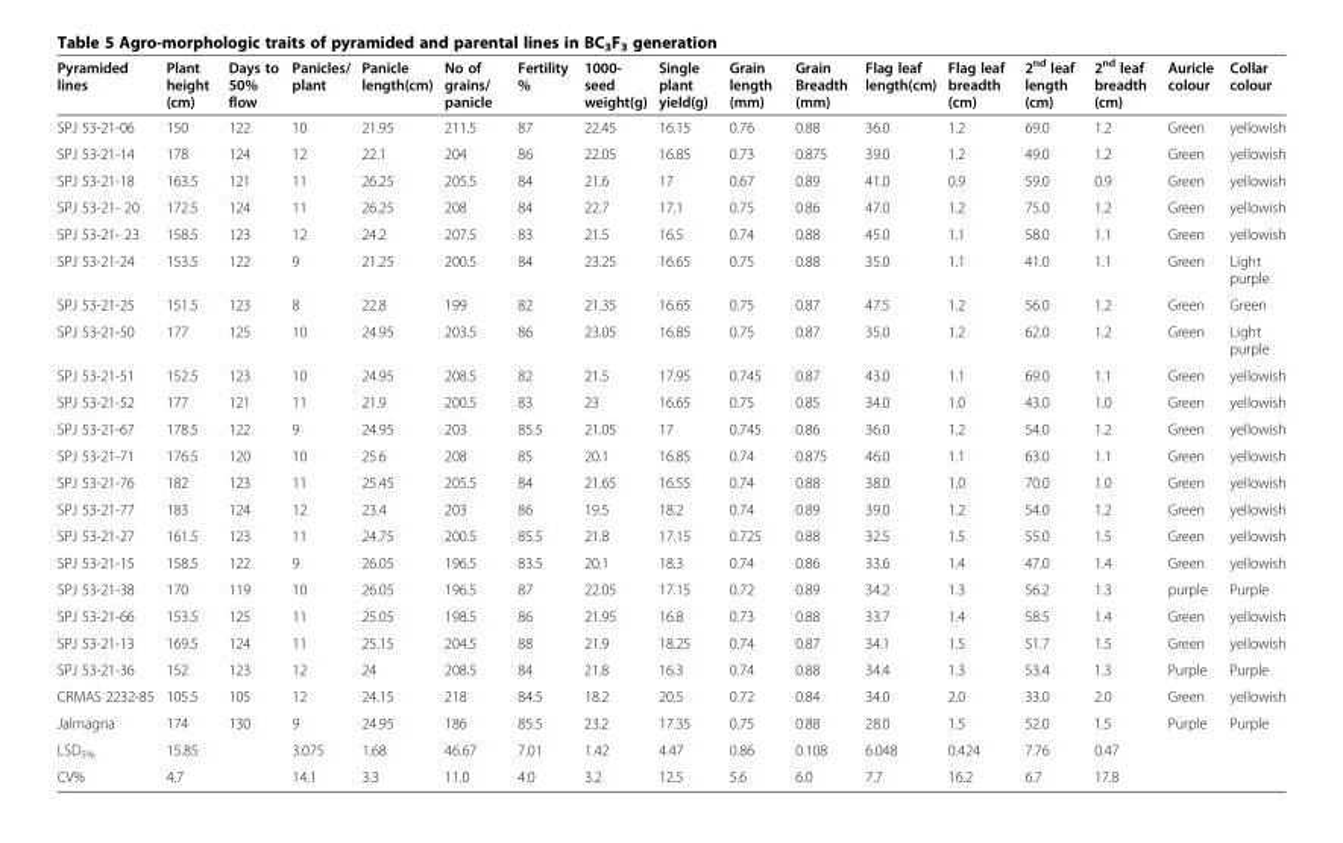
<table><thead><tr><td>Pyramided lines</td><td>Plant height (cm)</td><td>Days to 50% flow</td><td>Panicles/ plant</td><td>Panicle length(cm)</td><td>No of grains/ panicle</td><td>Fertility %</td><td>1000- seed weight(g)</td><td>Single plant yield(g)</td><td>Grain length (mm)</td><td>Grain Breadth (mm)</td><td>Flag leaf length(cm)</td><td>Flag leaf breadth (cm)</td><td>2<sup>nd</sup> leaf length (cm)</td><td>2<sup>nd</sup> leaf breadth (cm)</td><td>Auricle colour</td><td>Collar colour</td></tr></thead><tbody><tr><td>SPJ 53-21-06</td><td>150</td><td>122</td><td>10</td><td>21.95</td><td>211.5</td><td>87</td><td>22.45</td><td>16.15</td><td>0.76</td><td>0.88</td><td>36.0</td><td>1.2</td><td>69.0</td><td>1.2</td><td>Green</td><td>yellowish</td></tr><tr><td>SPJ 53-21-14</td><td>178</td><td>124</td><td>12</td><td>22.1</td><td>204</td><td>86</td><td>22.05</td><td>16.85</td><td>0.73</td><td>0.875</td><td>39.0</td><td>1.2</td><td>49.0</td><td>1.2</td><td>Green</td><td>yellowish</td></tr><tr><td>SPJ 53-21-18</td><td>163.5</td><td>121</td><td>11</td><td>26.25</td><td>205.5</td><td>84</td><td>21.6</td><td>17</td><td>0.67</td><td>0.89</td><td>41.0</td><td>0.9</td><td>59.0</td><td>0.9</td><td>Green</td><td>yellowish</td></tr><tr><td>SPJ 53-21- 20</td><td>172.5</td><td>124</td><td>11</td><td>26.25</td><td>208</td><td>84</td><td>22.7</td><td>17.1</td><td>0.75</td><td>0.86</td><td>47.0</td><td>1.2</td><td>75.0</td><td>1.2</td><td>Green</td><td>yellowish</td></tr><tr><td>SPJ 53-21- 23</td><td>158.5</td><td>123</td><td>12</td><td>24.2</td><td>207.5</td><td>83</td><td>21.5</td><td>16.5</td><td>0.74</td><td>0.88</td><td>45.0</td><td>1.1</td><td>58.0</td><td>1.1</td><td>Green</td><td>yellowish</td></tr><tr><td>SPJ 53-21-24</td><td>153.5</td><td>122</td><td>9</td><td>21.25</td><td>200.5</td><td>84</td><td>23.25</td><td>16.65</td><td>0.75</td><td>0.88</td><td>35.0</td><td>1.1</td><td>41.0</td><td>1.1</td><td>Green</td><td>Light purple</td></tr><tr><td>SPJ 53-21-25</td><td>151.5</td><td>123</td><td>8</td><td>22.8</td><td>199</td><td>82</td><td>21.35</td><td>16.65</td><td>0.75</td><td>0.87</td><td>47.5</td><td>1.2</td><td>56.0</td><td>1.2</td><td>Green</td><td>Green</td></tr><tr><td>SPJ 53-21-50</td><td>177</td><td>125</td><td>10</td><td>24.95</td><td>203.5</td><td>86</td><td>23.05</td><td>16.85</td><td>0.75</td><td>0.87</td><td>35.0</td><td>1.2</td><td>62.0</td><td>1.2</td><td>Green</td><td>Light purple</td></tr><tr><td>SPJ 53-21-51</td><td>152.5</td><td>123</td><td>10</td><td>24.95</td><td>208.5</td><td>82</td><td>21.5</td><td>17.95</td><td>0.745</td><td>0.87</td><td>43.0</td><td>1.1</td><td>69.0</td><td>1.1</td><td>Green</td><td>yellowish</td></tr><tr><td>SPJ 53-21-52</td><td>177</td><td>121</td><td>11</td><td>21.9</td><td>200.5</td><td>83</td><td>23</td><td>16.65</td><td>0.75</td><td>0.85</td><td>34.0</td><td>1.0</td><td>43.0</td><td>1.0</td><td>Green</td><td>yellowish</td></tr><tr><td>SPJ 53-21-67</td><td>178.5</td><td>122</td><td>9</td><td>24.95</td><td>203</td><td>85.5</td><td>21.05</td><td>17</td><td>0.745</td><td>0.86</td><td>36.0</td><td>1.2</td><td>54.0</td><td>1.2</td><td>Green</td><td>yellowish</td></tr><tr><td>SPJ 53-21-71</td><td>176.5</td><td>120</td><td>10</td><td>25.6</td><td>208</td><td>85</td><td>20.1</td><td>16.85</td><td>0.74</td><td>0.875</td><td>46.0</td><td>1.1</td><td>63.0</td><td>1.1</td><td>Green</td><td>yellowish</td></tr><tr><td>SPJ 53-21-76</td><td>182</td><td>123</td><td>11</td><td>25.45</td><td>205.5</td><td>84</td><td>21.65</td><td>16.55</td><td>0.74</td><td>0.88</td><td>38.0</td><td>1.0</td><td>70.0</td><td>1.0</td><td>Green</td><td>yellowish</td></tr><tr><td>SPJ 53-21-77</td><td>183</td><td>124</td><td>12</td><td>23.4</td><td>203</td><td>86</td><td>19.5</td><td>18.2</td><td>0.74</td><td>0.89</td><td>39.0</td><td>1.2</td><td>54.0</td><td>1.2</td><td>Green</td><td>yellowish</td></tr><tr><td>SPJ 53-21-27</td><td>161.5</td><td>123</td><td>11</td><td>24.75</td><td>200.5</td><td>85.5</td><td>21.8</td><td>17.15</td><td>0.725</td><td>0.88</td><td>32.5</td><td>1.5</td><td>55.0</td><td>1.5</td><td>Green</td><td>yellowish</td></tr><tr><td>SPJ 53-21-15</td><td>158.5</td><td>122</td><td>9</td><td>26.05</td><td>196.5</td><td>83.5</td><td>20.1</td><td>18.3</td><td>0.74</td><td>0.86</td><td>33.6</td><td>1.4</td><td>47.0</td><td>1.4</td><td>Green</td><td>yellowish</td></tr><tr><td>SPJ 53-21-38</td><td>170</td><td>119</td><td>10</td><td>26.05</td><td>196.5</td><td>87</td><td>22.05</td><td>17.15</td><td>0.72</td><td>0.89</td><td>34.2</td><td>1.3</td><td>56.2</td><td>1.3</td><td>purple</td><td>Purple</td></tr><tr><td>SPJ 53-21-66</td><td>153.5</td><td>125</td><td>11</td><td>25.05</td><td>198.5</td><td>86</td><td>21.95</td><td>16.8</td><td>0.73</td><td>0.88</td><td>33.7</td><td>1.4</td><td>58.5</td><td>1.4</td><td>Green</td><td>yellowish</td></tr><tr><td>SPJ 53-21-13</td><td>169.5</td><td>124</td><td>11</td><td>25.15</td><td>204.5</td><td>88</td><td>21.9</td><td>18.25</td><td>0.74</td><td>0.87</td><td>34.1</td><td>1.5</td><td>51.7</td><td>1.5</td><td>Green</td><td>yellowish</td></tr><tr><td>SPJ 53-21-36</td><td>152</td><td>123</td><td>12</td><td>24</td><td>208.5</td><td>84</td><td>21.8</td><td>16.3</td><td>0.74</td><td>0.88</td><td>34.4</td><td>1.3</td><td>53.4</td><td>1.3</td><td>Purple</td><td>Purple</td></tr><tr><td>CRMAS 2232-85</td><td>105.5</td><td>105</td><td>12</td><td>24.15</td><td>218</td><td>84.5</td><td>18.2</td><td>20.5</td><td>0.72</td><td>0.84</td><td>34.0</td><td>2.0</td><td>33.0</td><td>2.0</td><td>Green</td><td>yellowish</td></tr><tr><td>Jalmagna</td><td>174</td><td>130</td><td>9</td><td>24.95</td><td>186</td><td>85.5</td><td>23.2</td><td>17.35</td><td>0.75</td><td>0.88</td><td>28.0</td><td>1.5</td><td>52.0</td><td>1.5</td><td>Purple</td><td>Purple</td></tr><tr><td>LSD<sub>5%</sub></td><td>15.85</td><td></td><td>3.075</td><td>1.68</td><td>46.67</td><td>7.01</td><td>1.42</td><td>4.47</td><td>0.86</td><td>0.108</td><td>6.048</td><td>0.424</td><td>7.76</td><td>0.47</td><td></td><td></td></tr><tr><td>CV%</td><td>4.7</td><td></td><td>14.1</td><td>3.3</td><td>11.0</td><td>4.0</td><td>3.2</td><td>12.5</td><td>5.6</td><td>6.0</td><td>7.7</td><td>16.2</td><td>6.7</td><td>17.8</td><td></td><td></td></tr></tbody></table>